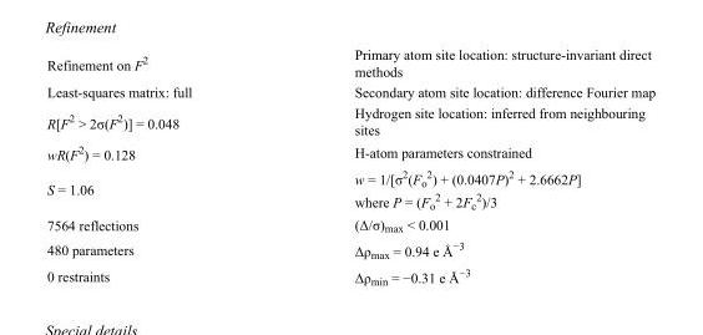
<table><tbody><tr><td>Refinement on F<sup>2</sup></td><td>Primary atom site location: structure-invariant direct methods</td></tr><tr><td>Least-squares matrix: full</td><td>Secondary atom site location: difference Fourier map</td></tr><tr><td>R[F<sup>2</sup> &gt; 2σ(F<sup>2</sup>)] = 0.048</td><td>Hydrogen site location: inferred from neighbouring sites</td></tr><tr><td>wR(F<sup>2</sup>) = 0.128</td><td>H-atom parameters constrained</td></tr><tr><td>S = 1.06</td><td>w = 1/[σ<sup>2</sup>(F<sub>o</sub> <sup>2</sup>) + (0.0407P)<sup>2</sup> + 2.6662P] where P = (F<sub>o</sub> <sup>2</sup> + 2F<sub>c</sub> <sup>2</sup>)/3</td></tr><tr><td>7564 reflections</td><td>(Δ/σ)<sub>max</sub> &lt; 0.001</td></tr><tr><td>480 parameters</td><td>Δρ<sub>max</sub> = 0.94 e Å<sup>−3</sup></td></tr><tr><td>0 restraints</td><td>Δρ<sub>min</sub> = −0.31 e Å<sup>−3</sup></td></tr></tbody></table>